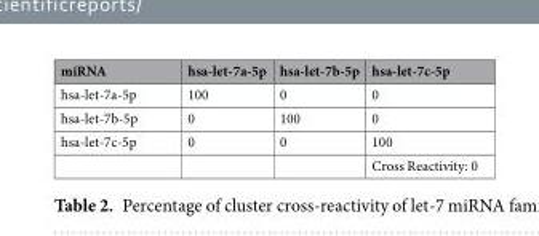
<table><thead><tr><td>miRNA</td><td>hsa-let-7a-5p</td><td>hsa-let-7b-5p</td><td>hsa-let-7c-5p</td></tr></thead><tbody><tr><td>hsa-let-7a-5p</td><td>100</td><td>0</td><td>0</td></tr><tr><td>hsa-let-7b-5p</td><td>0</td><td>100</td><td>0</td></tr><tr><td rowspan="2">hsa-let-7c-5p</td><td>0</td><td>0</td><td>100</td></tr><tr><td></td><td></td><td>Cross Reactivity: 0</td></tr></tbody></table>